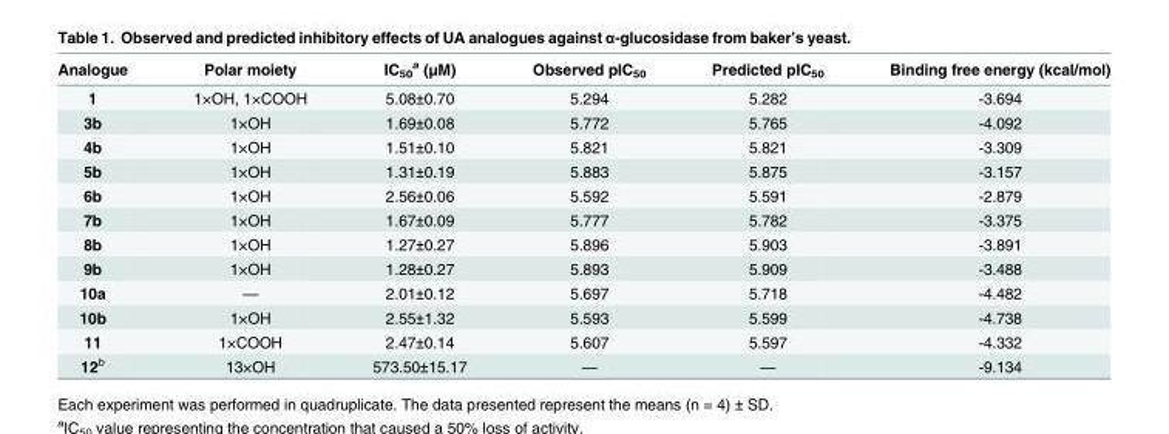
<table><thead><tr><td>Analogue</td><td>Polar moiety</td><td>IC<sub>50</sub> <sup>a</sup> (μM)</td><td>Observed pIC<sub>50</sub></td><td>Predicted pIC<sub>50</sub></td><td>Binding free energy (kcal/mol)</td></tr></thead><tbody><tr><td>1</td><td>1×OH, 1×COOH</td><td>5.08±0.70</td><td>5.294</td><td>5.282</td><td>-3.694</td></tr><tr><td>3b</td><td>1×OH</td><td>1.69±0.08</td><td>5.772</td><td>5.765</td><td>-4.092</td></tr><tr><td>4b</td><td>1×OH</td><td>1.51±0.10</td><td>5.821</td><td>5.821</td><td>-3.309</td></tr><tr><td>5b</td><td>1×OH</td><td>1.31±0.19</td><td>5.883</td><td>5.875</td><td>-3.157</td></tr><tr><td>6b</td><td>1×OH</td><td>2.56±0.06</td><td>5.592</td><td>5.591</td><td>-2.879</td></tr><tr><td>7b</td><td>1×OH</td><td>1.67±0.09</td><td>5.777</td><td>5.782</td><td>-3.375</td></tr><tr><td>8b</td><td>1×OH</td><td>1.27±0.27</td><td>5.896</td><td>5.903</td><td>-3.891</td></tr><tr><td>9b</td><td>1×OH</td><td>1.28±0.27</td><td>5.893</td><td>5.909</td><td>-3.488</td></tr><tr><td>10a</td><td>—</td><td>2.01±0.12</td><td>5.697</td><td>5.718</td><td>-4.482</td></tr><tr><td>10b</td><td>1×OH</td><td>2.55±1.32</td><td>5.593</td><td>5.599</td><td>-4.738</td></tr><tr><td>11</td><td>1×COOH</td><td>2.47±0.14</td><td>5.607</td><td>5.597</td><td>-4.332</td></tr><tr><td>12<sup>b</sup></td><td>13×OH</td><td>573.50±15.17</td><td>—</td><td>—</td><td>-9.134</td></tr></tbody></table>